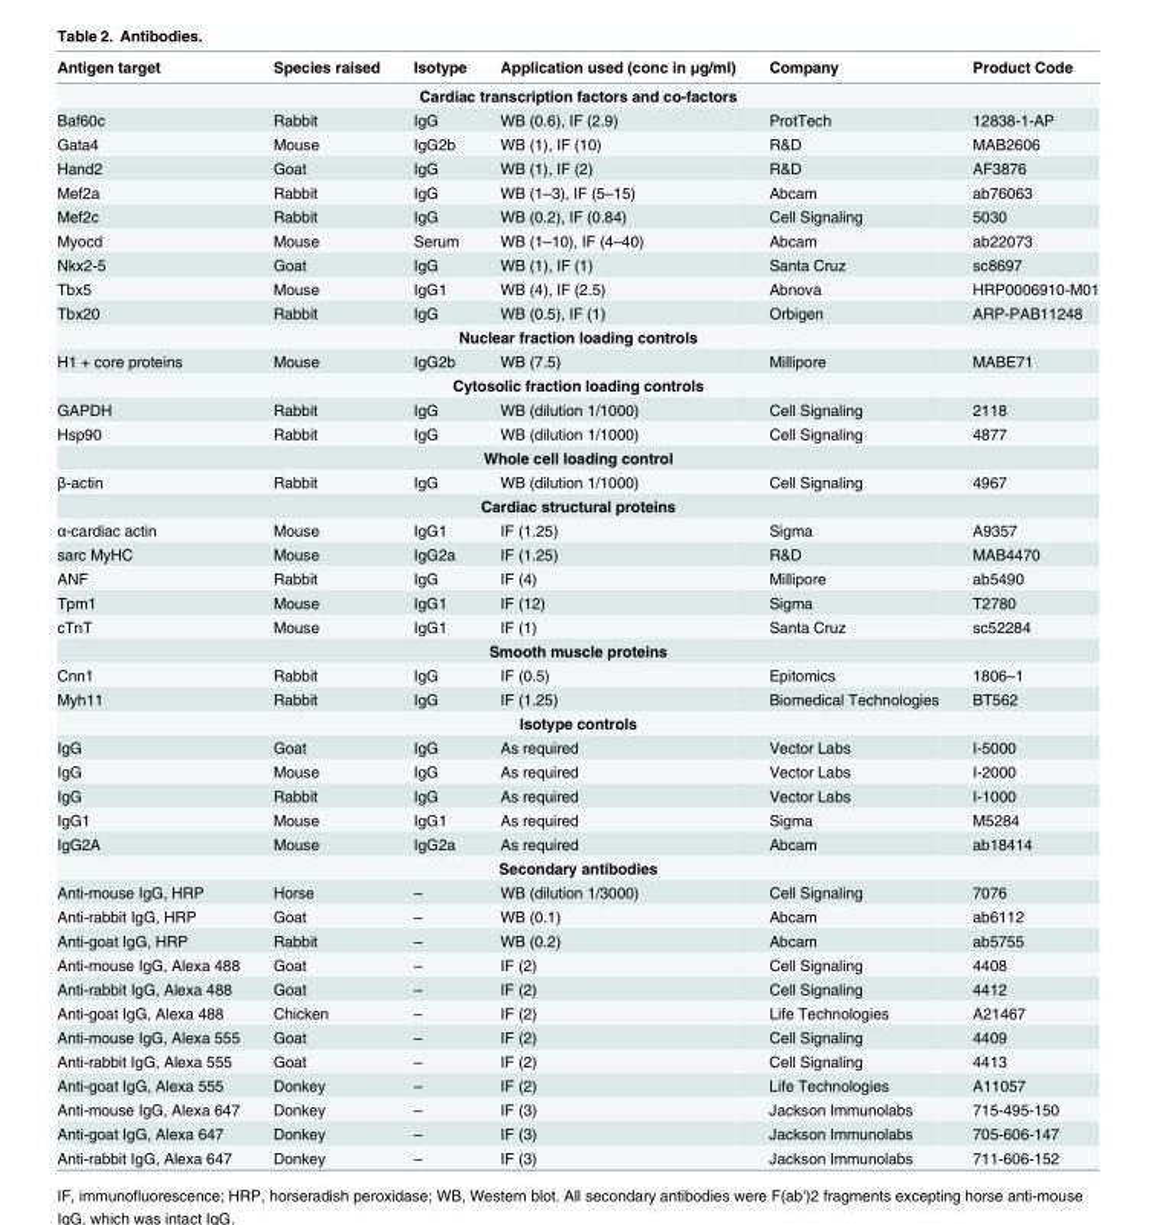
<table><thead><tr><td>Antigen target</td><td>Species raised</td><td>Isotype</td><td>Application used (conc in μg/ml)</td><td>Company</td><td>Product Code</td></tr></thead><tbody><tr><td colspan="6">Cardiac transcription factors and co-factors</td></tr><tr><td>Baf60c</td><td>Rabbit</td><td>IgG</td><td>WB (0.6), IF (2.9)</td><td>ProtTech</td><td>12838-1-AP</td></tr><tr><td>Gata4</td><td>Mouse</td><td>IgG2b</td><td>WB (1), IF (10)</td><td>R&amp;D</td><td>MAB2606</td></tr><tr><td>Hand2</td><td>Goat</td><td>IgG</td><td>WB (1), IF (2)</td><td>R&amp;D</td><td>AF3876</td></tr><tr><td>Mef2a</td><td>Rabbit</td><td>IgG</td><td>WB (1–3), IF (5–15)</td><td>Abcam</td><td>ab76063</td></tr><tr><td>Mef2c</td><td>Rabbit</td><td>IgG</td><td>WB (0.2), IF (0.84)</td><td>Cell Signaling</td><td>5030</td></tr><tr><td>Myocd</td><td>Mouse</td><td>Serum</td><td>WB (1–10), IF (4–40)</td><td>Abcam</td><td>ab22073</td></tr><tr><td>Nkx2-5</td><td>Goat</td><td>IgG</td><td>WB (1), IF (1)</td><td>Santa Cruz</td><td>sc8697</td></tr><tr><td>Tbx5</td><td>Mouse</td><td>IgG1</td><td>WB (4), IF (2.5)</td><td>Abnova</td><td>HRP0006910-M01</td></tr><tr><td>Tbx20</td><td>Rabbit</td><td>IgG</td><td>WB (0.5), IF (1)</td><td>Orbigen</td><td>ARP-PAB11248</td></tr><tr><td colspan="6">Nuclear fraction loading controls</td></tr><tr><td>H1 + core proteins</td><td>Mouse</td><td>IgG2b</td><td>WB (7.5)</td><td>Millipore</td><td>MABE71</td></tr><tr><td colspan="6">Cytosolic fraction loading controls</td></tr><tr><td>GAPDH</td><td>Rabbit</td><td>IgG</td><td>WB (dilution 1/1000)</td><td>Cell Signaling</td><td>2118</td></tr><tr><td>Hsp90</td><td>Rabbit</td><td>IgG</td><td>WB (dilution 1/1000)</td><td>Cell Signaling</td><td>4877</td></tr><tr><td colspan="6">Whole cell loading control</td></tr><tr><td>β-actin</td><td>Rabbit</td><td>IgG</td><td>WB (dilution 1/1000)</td><td>Cell Signaling</td><td>4967</td></tr><tr><td colspan="6">Cardiac structural proteins</td></tr><tr><td>α-cardiac actin</td><td>Mouse</td><td>IgG1</td><td>IF (1.25)</td><td>Sigma</td><td>A9357</td></tr><tr><td>sarc MyHC</td><td>Mouse</td><td>IgG2a</td><td>IF (1.25)</td><td>R&amp;D</td><td>MAB4470</td></tr><tr><td>ANF</td><td>Rabbit</td><td>IgG</td><td>IF (4)</td><td>Millipore</td><td>ab5490</td></tr><tr><td>Tpm1</td><td>Mouse</td><td>IgG1</td><td>IF (12)</td><td>Sigma</td><td>T2780</td></tr><tr><td>cTnT</td><td>Mouse</td><td>IgG1</td><td>IF (1)</td><td>Santa Cruz</td><td>sc52284</td></tr><tr><td colspan="6">Smooth muscle proteins</td></tr><tr><td>Cnn1</td><td>Rabbit</td><td>IgG</td><td>IF (0.5)</td><td>Epitomics</td><td>1806–1</td></tr><tr><td>Myh11</td><td>Rabbit</td><td>IgG</td><td>IF (1.25)</td><td>Biomedical Technologies</td><td>BT562</td></tr><tr><td colspan="6">Isotype controls</td></tr><tr><td>IgG</td><td>Goat</td><td>IgG</td><td>As required</td><td>Vector Labs</td><td>I-5000</td></tr><tr><td>IgG</td><td>Mouse</td><td>IgG</td><td>As required</td><td>Vector Labs</td><td>I-2000</td></tr><tr><td>IgG</td><td>Rabbit</td><td>IgG</td><td>As required</td><td>Vector Labs</td><td>I-1000</td></tr><tr><td>IgG1</td><td>Mouse</td><td>IgG1</td><td>As required</td><td>Sigma</td><td>M5284</td></tr><tr><td>IgG2A</td><td>Mouse</td><td>IgG2a</td><td>As required</td><td>Abcam</td><td>ab18414</td></tr><tr><td colspan="6">Secondary antibodies</td></tr><tr><td>Anti-mouse IgG, HRP</td><td>Horse</td><td>–</td><td>WB (dilution 1/3000)</td><td>Cell Signaling</td><td>7076</td></tr><tr><td>Anti-rabbit IgG, HRP</td><td>Goat</td><td>–</td><td>WB (0.1)</td><td>Abcam</td><td>ab6112</td></tr><tr><td>Anti-goat IgG, HRP</td><td>Rabbit</td><td>–</td><td>WB (0.2)</td><td>Abcam</td><td>ab5755</td></tr><tr><td>Anti-mouse IgG, Alexa 488</td><td>Goat</td><td>–</td><td>IF (2)</td><td>Cell Signaling</td><td>4408</td></tr><tr><td>Anti-rabbit IgG, Alexa 488</td><td>Goat</td><td>–</td><td>IF (2)</td><td>Cell Signaling</td><td>4412</td></tr><tr><td>Anti-goat IgG, Alexa 488</td><td>Chicken</td><td>–</td><td>IF (2)</td><td>Life Technologies</td><td>A21467</td></tr><tr><td>Anti-mouse IgG, Alexa 555</td><td>Goat</td><td>–</td><td>IF (2)</td><td>Cell Signaling</td><td>4409</td></tr><tr><td>Anti-rabbit IgG, Alexa 555</td><td>Goat</td><td>–</td><td>IF (2)</td><td>Cell Signaling</td><td>4413</td></tr><tr><td>Anti-goat IgG, Alexa 555</td><td>Donkey</td><td>–</td><td>IF (2)</td><td>Life Technologies</td><td>A11057</td></tr><tr><td>Anti-mouse IgG, Alexa 647</td><td>Donkey</td><td>–</td><td>IF (3)</td><td>Jackson Immunolabs</td><td>715-495-150</td></tr><tr><td>Anti-goat IgG, Alexa 647</td><td>Donkey</td><td>–</td><td>IF (3)</td><td>Jackson Immunolabs</td><td>705-606-147</td></tr><tr><td>Anti-rabbit IgG, Alexa 647</td><td>Donkey</td><td>–</td><td>IF (3)</td><td>Jackson Immunolabs</td><td>711-606-152</td></tr></tbody></table>